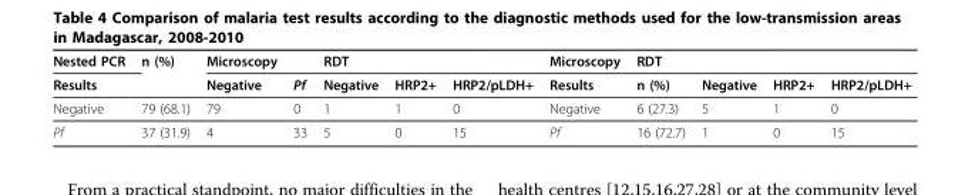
<table><thead><tr><td rowspan="2">Nested PCR Results</td><td rowspan="2">n (%)</td><td rowspan="2">Microscopy Negative</td><td rowspan="2">Pf</td><td rowspan="2">RDT Negative</td><td rowspan="2">HRP2+</td><td rowspan="2">HRP2/pLDH+</td><td rowspan="2">Microscopy Results</td><td rowspan="2">RDT n (%)</td><td rowspan="2">Negative</td><td rowspan="2">HRP2+</td><td rowspan="2">HRP2/pLDH+</td></tr><tr></tr></thead><tbody><tr><td>Negative</td><td>79 (68.1)</td><td>79</td><td>0</td><td>1</td><td>1</td><td>0</td><td>Negative</td><td>6 (27.3)</td><td>5</td><td>1</td><td>0</td></tr><tr><td>Pf</td><td>37 (31.9)</td><td>4</td><td>33</td><td>5</td><td>0</td><td>15</td><td>Pf</td><td>16 (72.7)</td><td>1</td><td>0</td><td>15</td></tr></tbody></table>